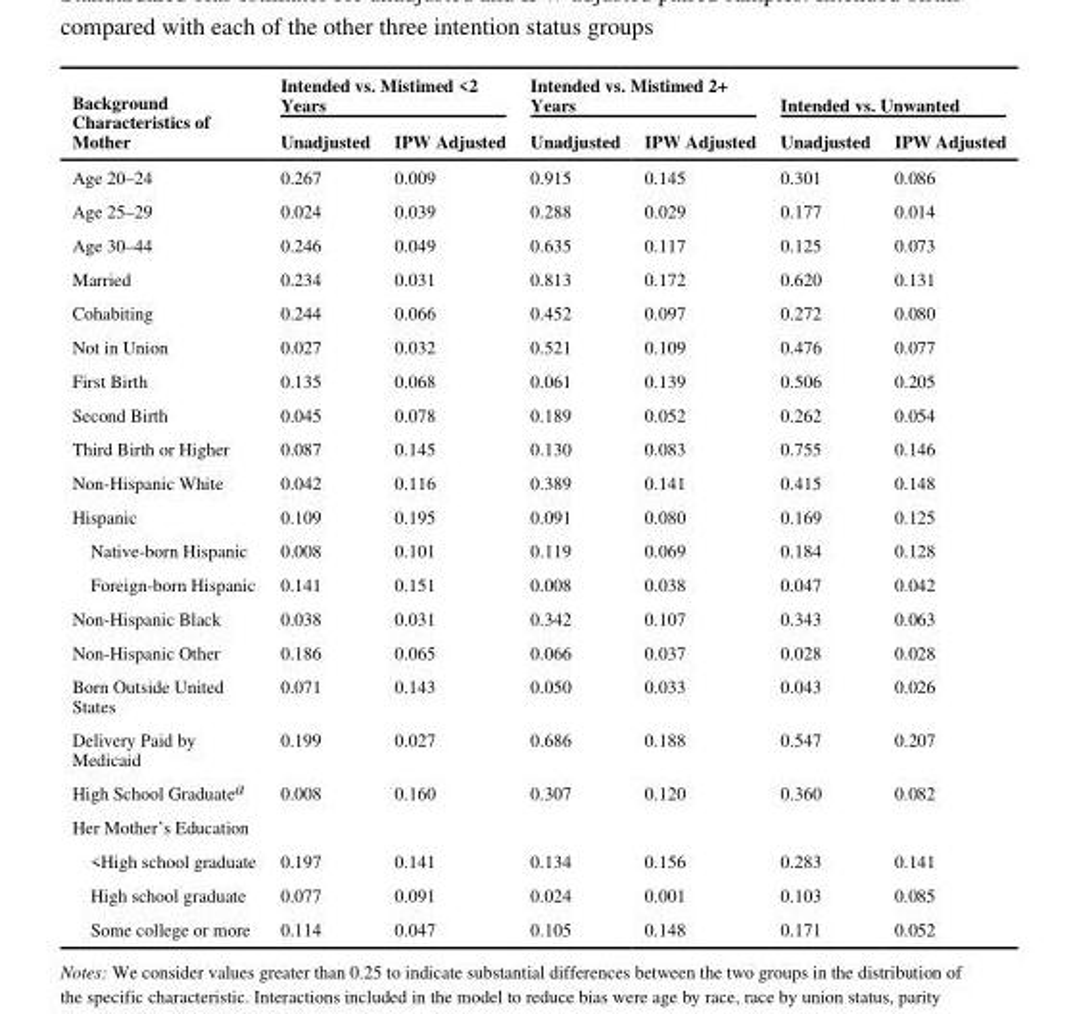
<table><thead><tr><td rowspan="2">Background Characteristics of Mother</td><td colspan="2">Intended vs. Mistimed &lt;2 Years</td><td colspan="2">Intended vs. Mistimed 2+ Years</td><td colspan="2">Intended vs. Unwanted</td></tr><tr><td>Unadjusted</td><td>IPW Adjusted</td><td>Unadjusted</td><td>IPW Adjusted</td><td>Unadjusted</td><td>IPW Adjusted</td></tr></thead><tbody><tr><td>Age 20–24</td><td>0.267</td><td>0.009</td><td>0.915</td><td>0.145</td><td>0.301</td><td>0.086</td></tr><tr><td>Age 25–29</td><td>0.024</td><td>0.039</td><td>0.288</td><td>0.029</td><td>0.177</td><td>0.014</td></tr><tr><td>Age 30–44</td><td>0.246</td><td>0.049</td><td>0.635</td><td>0.117</td><td>0.125</td><td>0.073</td></tr><tr><td>Married</td><td>0.234</td><td>0.031</td><td>0.813</td><td>0.172</td><td>0.620</td><td>0.131</td></tr><tr><td>Cohabiting</td><td>0.244</td><td>0.066</td><td>0.452</td><td>0.097</td><td>0.272</td><td>0.080</td></tr><tr><td>Not in Union</td><td>0.027</td><td>0.032</td><td>0.521</td><td>0.109</td><td>0.476</td><td>0.077</td></tr><tr><td>First Birth</td><td>0.135</td><td>0.068</td><td>0.061</td><td>0.139</td><td>0.506</td><td>0.205</td></tr><tr><td>Second Birth</td><td>0.045</td><td>0.078</td><td>0.189</td><td>0.052</td><td>0.262</td><td>0.054</td></tr><tr><td>Third Birth or Higher</td><td>0.087</td><td>0.145</td><td>0.130</td><td>0.083</td><td>0.755</td><td>0.146</td></tr><tr><td>Non-Hispanic White</td><td>0.042</td><td>0.116</td><td>0.389</td><td>0.141</td><td>0.415</td><td>0.148</td></tr><tr><td>Hispanic</td><td>0.109</td><td>0.195</td><td>0.091</td><td>0.080</td><td>0.169</td><td>0.125</td></tr><tr><td>Native-born Hispanic</td><td>0.008</td><td>0.101</td><td>0.119</td><td>0.069</td><td>0.184</td><td>0.128</td></tr><tr><td>Foreign-born Hispanic</td><td>0.141</td><td>0.151</td><td>0.008</td><td>0.038</td><td>0.047</td><td>0.042</td></tr><tr><td>Non-Hispanic Black</td><td>0.038</td><td>0.031</td><td>0.342</td><td>0.107</td><td>0.343</td><td>0.063</td></tr><tr><td>Non-Hispanic Other</td><td>0.186</td><td>0.065</td><td>0.066</td><td>0.037</td><td>0.028</td><td>0.028</td></tr><tr><td>Born Outside United States</td><td>0.071</td><td>0.143</td><td>0.050</td><td>0.033</td><td>0.043</td><td>0.026</td></tr><tr><td>Delivery Paid by Medicaid</td><td>0.199</td><td>0.027</td><td>0.686</td><td>0.188</td><td>0.547</td><td>0.207</td></tr><tr><td>High School Graduate<sup>a</sup></td><td>0.008</td><td>0.160</td><td>0.307</td><td>0.120</td><td>0.360</td><td>0.082</td></tr><tr><td colspan="7">Her Mother’s Education</td></tr><tr><td>&lt;High school graduate</td><td>0.197</td><td>0.141</td><td>0.134</td><td>0.156</td><td>0.283</td><td>0.141</td></tr><tr><td>High school graduate</td><td>0.077</td><td>0.091</td><td>0.024</td><td>0.001</td><td>0.103</td><td>0.085</td></tr><tr><td>Some college or more</td><td>0.114</td><td>0.047</td><td>0.105</td><td>0.148</td><td>0.171</td><td>0.052</td></tr></tbody></table>